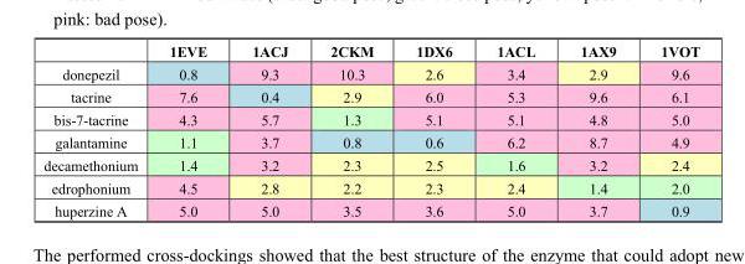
<table><thead><tr><td></td><td>1EVE</td><td>1ACJ</td><td>2CKM</td><td>1DX6</td><td>1ACL</td><td>1AX9</td><td>1VOT</td></tr></thead><tbody><tr><td>donepezil</td><td>0.8</td><td>9.3</td><td>10.3</td><td>2.6</td><td>3.4</td><td>2.9</td><td>9.6</td></tr><tr><td>tacrine</td><td>7.6</td><td>0.4</td><td>2.9</td><td>6.0</td><td>5.3</td><td>9.6</td><td>6.1</td></tr><tr><td>bis-7-tacrine</td><td>4.3</td><td>5.7</td><td>1.3</td><td>5.1</td><td>5.1</td><td>4.8</td><td>5.0</td></tr><tr><td>galantamine</td><td>1.1</td><td>3.7</td><td>0.8</td><td>0.6</td><td>6.2</td><td>8.7</td><td>4.9</td></tr><tr><td>decamethonium</td><td>1.4</td><td>3.2</td><td>2.3</td><td>2.5</td><td>1.6</td><td>3.2</td><td>2.4</td></tr><tr><td>edrophonium</td><td>4.5</td><td>2.8</td><td>2.2</td><td>2.3</td><td>2.4</td><td>1.4</td><td>2.0</td></tr><tr><td>huperzine A</td><td>5.0</td><td>5.0</td><td>3.5</td><td>3.6</td><td>5.0</td><td>3.7</td><td>0.9</td></tr></tbody></table>